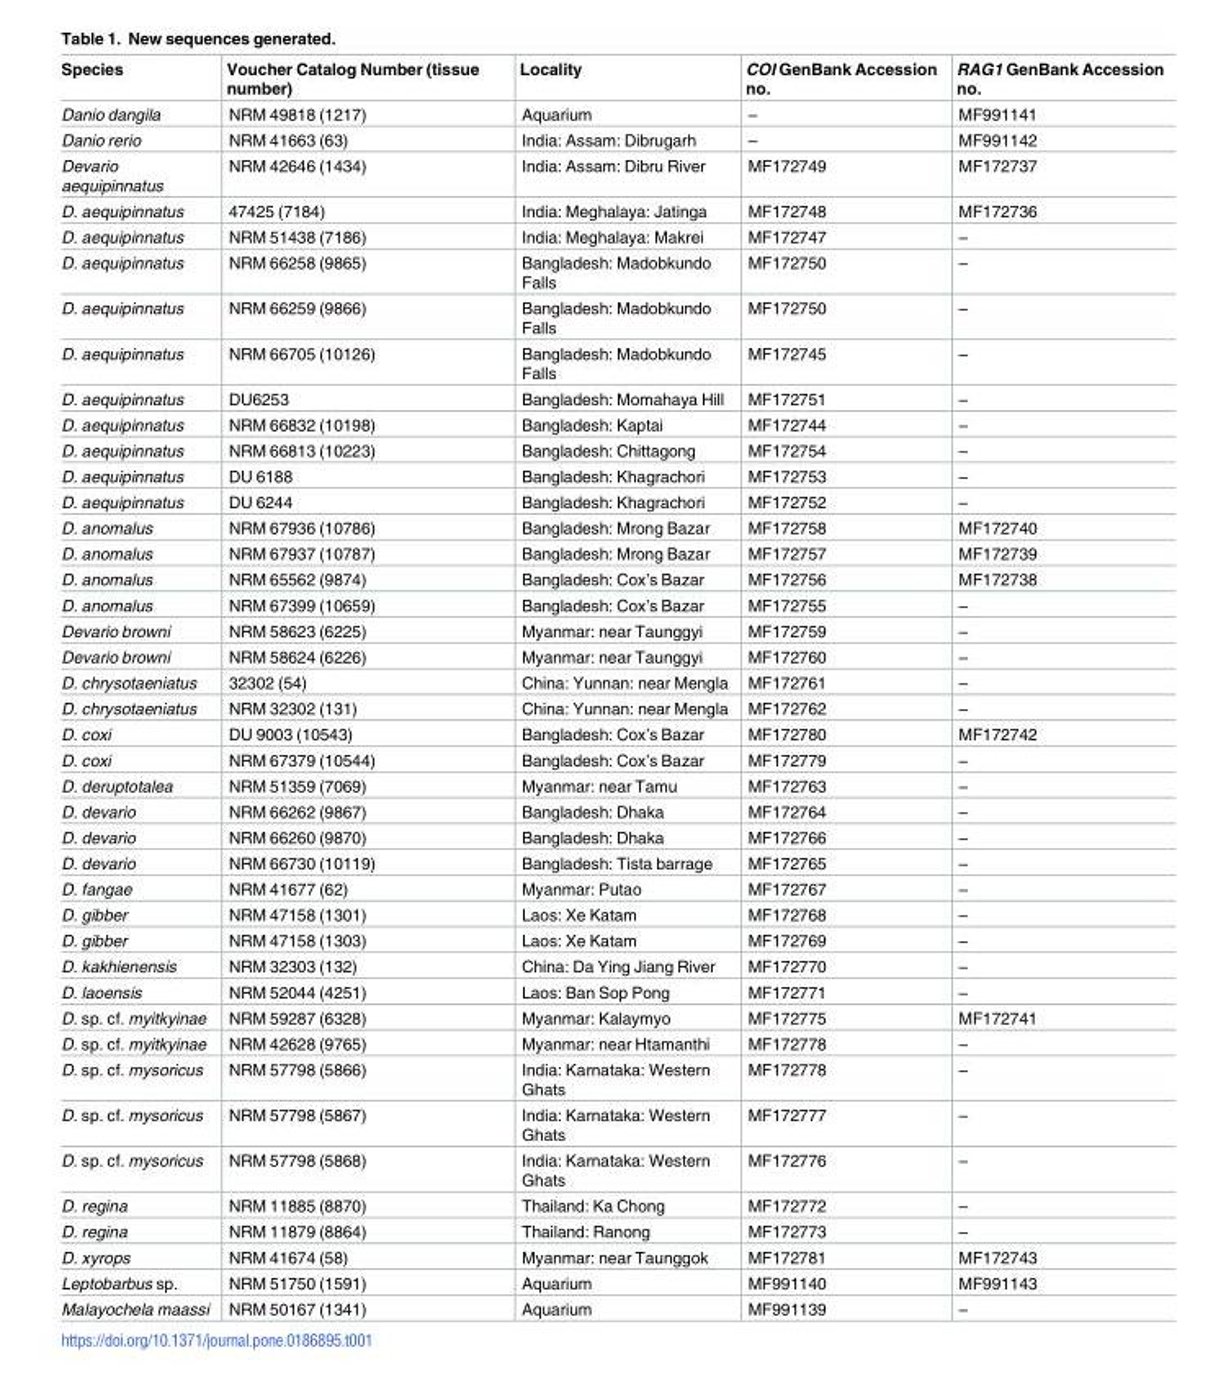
<table><thead><tr><td>Species</td><td>Voucher Catalog Number (tissue number)</td><td>Locality</td><td>COI GenBank Accession no.</td><td>RAG1 GenBank Accession no.</td></tr></thead><tbody><tr><td>Danio dangila</td><td>NRM 49818 (1217)</td><td>Aquarium</td><td>–</td><td>MF991141</td></tr><tr><td>Danio rerio</td><td>NRM 41663 (63)</td><td>India: Assam: Dibrugarh</td><td>–</td><td>MF991142</td></tr><tr><td>Devario aequipinnatus</td><td>NRM 42646 (1434)</td><td>India: Assam: Dibru River</td><td>MF172749</td><td>MF172737</td></tr><tr><td>D. aequipinnatus</td><td>47425 (7184)</td><td>India: Meghalaya: Jatinga</td><td>MF172748</td><td>MF172736</td></tr><tr><td>D. aequipinnatus</td><td>NRM 51438 (7186)</td><td>India: Meghalaya: Makrei</td><td>MF172747</td><td>–</td></tr><tr><td>D. aequipinnatus</td><td>NRM 66258 (9865)</td><td>Bangladesh: Madobkundo Falls</td><td>MF172750</td><td>–</td></tr><tr><td>D. aequipinnatus</td><td>NRM 66259 (9866)</td><td>Bangladesh: Madobkundo Falls</td><td>MF172750</td><td>–</td></tr><tr><td>D. aequipinnatus</td><td>NRM 66705 (10126)</td><td>Bangladesh: Madobkundo Falls</td><td>MF172745</td><td>–</td></tr><tr><td>D. aequipinnatus</td><td>DU6253</td><td>Bangladesh: Momahaya Hill</td><td>MF172751</td><td>–</td></tr><tr><td>D. aequipinnatus</td><td>NRM 66832 (10198)</td><td>Bangladesh: Kaptai</td><td>MF172744</td><td>–</td></tr><tr><td>D. aequipinnatus</td><td>NRM 66813 (10223)</td><td>Bangladesh: Chittagong</td><td>MF172754</td><td>–</td></tr><tr><td>D. aequipinnatus</td><td>DU 6188</td><td>Bangladesh: Khagrachori</td><td>MF172753</td><td>–</td></tr><tr><td>D. aequipinnatus</td><td>DU 6244</td><td>Bangladesh: Khagrachori</td><td>MF172752</td><td>–</td></tr><tr><td>D. anomalus</td><td>NRM 67936 (10786)</td><td>Bangladesh: Mrong Bazar</td><td>MF172758</td><td>MF172740</td></tr><tr><td>D. anomalus</td><td>NRM 67937 (10787)</td><td>Bangladesh: Mrong Bazar</td><td>MF172757</td><td>MF172739</td></tr><tr><td>D. anomalus</td><td>NRM 65562 (9874)</td><td>Bangladesh: Cox’s Bazar</td><td>MF172756</td><td>MF172738</td></tr><tr><td>D. anomalus</td><td>NRM 67399 (10659)</td><td>Bangladesh: Cox’s Bazar</td><td>MF172755</td><td>–</td></tr><tr><td>Devario browni</td><td>NRM 58623 (6225)</td><td>Myanmar: near Taunggyi</td><td>MF172759</td><td>–</td></tr><tr><td>Devario browni</td><td>NRM 58624 (6226)</td><td>Myanmar: near Taunggyi</td><td>MF172760</td><td>–</td></tr><tr><td>D. chrysotaeniatus</td><td>32302 (54)</td><td>China: Yunnan: near Mengla</td><td>MF172761</td><td>–</td></tr><tr><td>D. chrysotaeniatus</td><td>NRM 32302 (131)</td><td>China: Yunnan: near Mengla</td><td>MF172762</td><td>–</td></tr><tr><td>D. coxi</td><td>DU 9003 (10543)</td><td>Bangladesh: Cox’s Bazar</td><td>MF172780</td><td>MF172742</td></tr><tr><td>D. coxi</td><td>NRM 67379 (10544)</td><td>Bangladesh: Cox’s Bazar</td><td>MF172779</td><td>–</td></tr><tr><td>D. deruptotalea</td><td>NRM 51359 (7069)</td><td>Myanmar: near Tamu</td><td>MF172763</td><td>–</td></tr><tr><td>D. devario</td><td>NRM 66262 (9867)</td><td>Bangladesh: Dhaka</td><td>MF172764</td><td>–</td></tr><tr><td>D. devario</td><td>NRM 66260 (9870)</td><td>Bangladesh: Dhaka</td><td>MF172766</td><td>–</td></tr><tr><td>D. devario</td><td>NRM 66730 (10119)</td><td>Bangladesh: Tista barrage</td><td>MF172765</td><td>–</td></tr><tr><td>D. fangae</td><td>NRM 41677 (62)</td><td>Myanmar: Putao</td><td>MF172767</td><td>–</td></tr><tr><td>D. gibber</td><td>NRM 47158 (1301)</td><td>Laos: Xe Katam</td><td>MF172768</td><td>–</td></tr><tr><td>D. gibber</td><td>NRM 47158 (1303)</td><td>Laos: Xe Katam</td><td>MF172769</td><td>–</td></tr><tr><td>D. kakhienensis</td><td>NRM 32303 (132)</td><td>China: Da Ying Jiang River</td><td>MF172770</td><td>–</td></tr><tr><td>D. laoensis</td><td>NRM 52044 (4251)</td><td>Laos: Ban Sop Pong</td><td>MF172771</td><td>–</td></tr><tr><td>D. sp. cf. myitkyinae</td><td>NRM 59287 (6328)</td><td>Myanmar: Kalaymyo</td><td>MF172775</td><td>MF172741</td></tr><tr><td>D. sp. cf. myitkyinae</td><td>NRM 42628 (9765)</td><td>Myanmar: near Htamanthi</td><td>MF172778</td><td>–</td></tr><tr><td>D. sp. cf. mysoricus</td><td>NRM 57798 (5866)</td><td>India: Karnataka: Western Ghats</td><td>MF172778</td><td>–</td></tr><tr><td>D. sp. cf. mysoricus</td><td>NRM 57798 (5867)</td><td>India: Karnataka: Western Ghats</td><td>MF172777</td><td>–</td></tr><tr><td>D. sp. cf. mysoricus</td><td>NRM 57798 (5868)</td><td>India: Karnataka: Western Ghats</td><td>MF172776</td><td>–</td></tr><tr><td>D. regina</td><td>NRM 11885 (8870)</td><td>Thailand: Ka Chong</td><td>MF172772</td><td>–</td></tr><tr><td>D. regina</td><td>NRM 11879 (8864)</td><td>Thailand: Ranong</td><td>MF172773</td><td>–</td></tr><tr><td>D. xyrops</td><td>NRM 41674 (58)</td><td>Myanmar: near Taunggok</td><td>MF172781</td><td>MF172743</td></tr><tr><td>Leptobarbus sp.</td><td>NRM 51750 (1591)</td><td>Aquarium</td><td>MF991140</td><td>MF991143</td></tr><tr><td>Malayochela maassi</td><td>NRM 50167 (1341)</td><td>Aquarium</td><td>MF991139</td><td>–</td></tr></tbody></table>